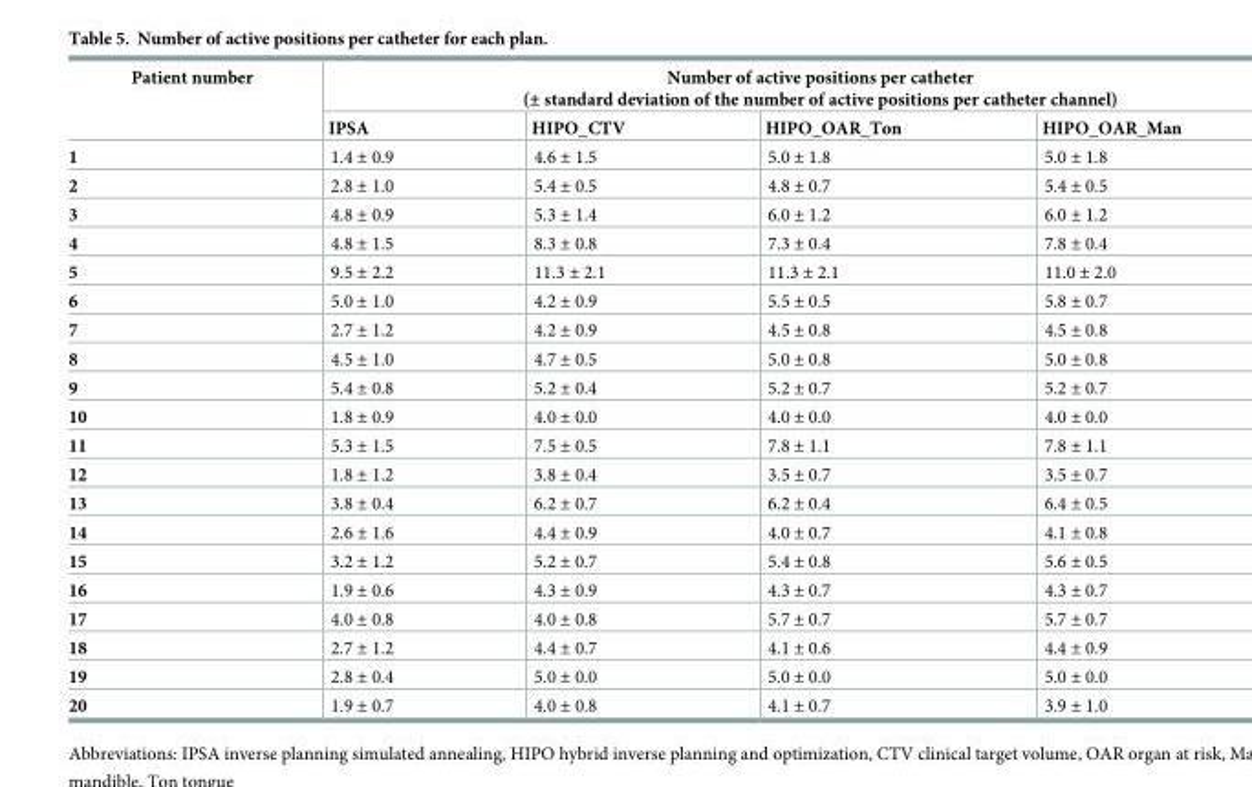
<table><thead><tr><td rowspan="2">Patient number</td><td colspan="4">Number of active positions per catheter (± standard deviation of the number of active positions per catheter channel)</td></tr><tr><td>IPSA</td><td>HIPO_CTV</td><td>HIPO_OAR_Ton</td><td>HIPO_OAR_Man</td></tr></thead><tbody><tr><td>1</td><td>1.4 ± 0.9</td><td>4.6 ± 1.5</td><td>5.0 ± 1.8</td><td>5.0 ± 1.8</td></tr><tr><td>2</td><td>2.8 ± 1.0</td><td>5.4 ± 0.5</td><td>4.8 ± 0.7</td><td>5.4 ± 0.5</td></tr><tr><td>3</td><td>4.8 ± 0.9</td><td>5.3 ± 1.4</td><td>6.0 ± 1.2</td><td>6.0 ± 1.2</td></tr><tr><td>4</td><td>4.8 ± 1.5</td><td>8.3 ± 0.8</td><td>7.3 ± 0.4</td><td>7.8 ± 0.4</td></tr><tr><td>5</td><td>9.5 ± 2.2</td><td>11.3 ± 2.1</td><td>11.3 ± 2.1</td><td>11.0 ± 2.0</td></tr><tr><td>6</td><td>5.0 ± 1.0</td><td>4.2 ± 0.9</td><td>5.5 ± 0.5</td><td>5.8 ± 0.7</td></tr><tr><td>7</td><td>2.7 ± 1.2</td><td>4.2 ± 0.9</td><td>4.5 ± 0.8</td><td>4.5 ± 0.8</td></tr><tr><td>8</td><td>4.5 ± 1.0</td><td>4.7 ± 0.5</td><td>5.0 ± 0.8</td><td>5.0 ± 0.8</td></tr><tr><td>9</td><td>5.4 ± 0.8</td><td>5.2 ± 0.4</td><td>5.2 ± 0.7</td><td>5.2 ± 0.7</td></tr><tr><td>10</td><td>1.8 ± 0.9</td><td>4.0 ± 0.0</td><td>4.0 ± 0.0</td><td>4.0 ± 0.0</td></tr><tr><td>11</td><td>5.3 ± 1.5</td><td>7.5 ± 0.5</td><td>7.8 ± 1.1</td><td>7.8 ± 1.1</td></tr><tr><td>12</td><td>1.8 ± 1.2</td><td>3.8 ± 0.4</td><td>3.5 ± 0.7</td><td>3.5 ± 0.7</td></tr><tr><td>13</td><td>3.8 ± 0.4</td><td>6.2 ± 0.7</td><td>6.2 ± 0.4</td><td>6.4 ± 0.5</td></tr><tr><td>14</td><td>2.6 ± 1.6</td><td>4.4 ± 0.9</td><td>4.0 ± 0.7</td><td>4.1 ± 0.8</td></tr><tr><td>15</td><td>3.2 ± 1.2</td><td>5.2 ± 0.7</td><td>5.4 ± 0.8</td><td>5.6 ± 0.5</td></tr><tr><td>16</td><td>1.9 ± 0.6</td><td>4.3 ± 0.9</td><td>4.3 ± 0.7</td><td>4.3 ± 0.7</td></tr><tr><td>17</td><td>4.0 ± 0.8</td><td>4.0 ± 0.8</td><td>5.7 ± 0.7</td><td>5.7 ± 0.7</td></tr><tr><td>18</td><td>2.7 ± 1.2</td><td>4.4 ± 0.7</td><td>4.1 ± 0.6</td><td>4.4 ± 0.9</td></tr><tr><td>19</td><td>2.8 ± 0.4</td><td>5.0 ± 0.0</td><td>5.0 ± 0.0</td><td>5.0 ± 0.0</td></tr><tr><td>20</td><td>1.9 ± 0.7</td><td>4.0 ± 0.8</td><td>4.1 ± 0.7</td><td>3.9 ± 1.0</td></tr></tbody></table>